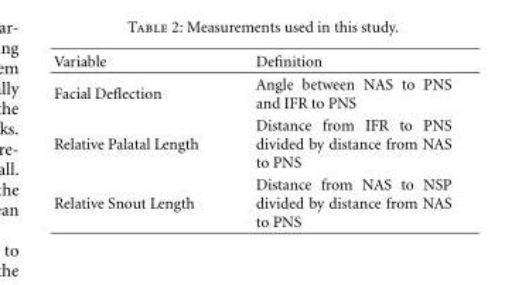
<table><thead><tr><td>Variable</td><td>Definition</td></tr></thead><tbody><tr><td>Facial Deflection</td><td>Angle between NAS to PNS and IFR to PNS</td></tr><tr><td>Relative Palatal Length</td><td>Distance from IFR to PNS divided by distance from NAS to PNS</td></tr><tr><td>Relative Snout Length</td><td>Distance from NAS to NSP divided by distance from NAS to PNS</td></tr></tbody></table>